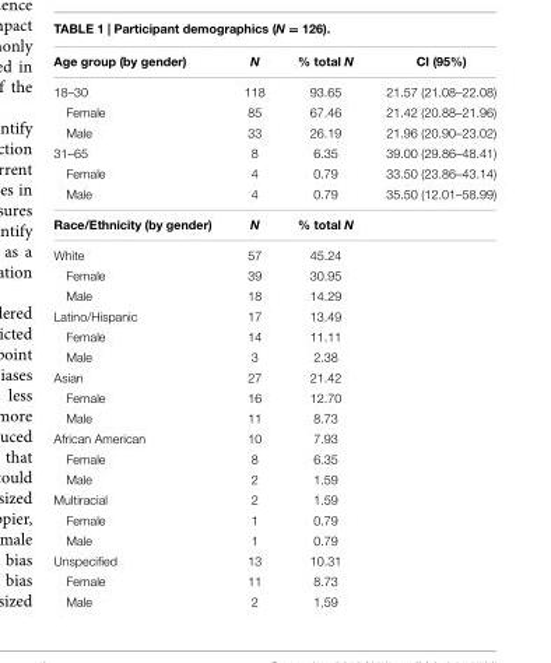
<table><thead><tr><td>Age group (by gender)</td><td>N</td><td>% total N</td><td>CI (95%)</td></tr></thead><tbody><tr><td>18–30</td><td>118</td><td>93.65</td><td>21.57 (21.08–22.08)</td></tr><tr><td>Female</td><td>85</td><td>67.46</td><td>21.42 (20.88–21.96)</td></tr><tr><td>Male</td><td>33</td><td>26.19</td><td>21.96 (20.90–23.02)</td></tr><tr><td>31–65</td><td>8</td><td>6.35</td><td>39.00 (29.86–48.41)</td></tr><tr><td>Female</td><td>4</td><td>0.79</td><td>33.50 (23.86–43.14)</td></tr><tr><td>Male</td><td>4</td><td>0.79</td><td>35.50 (12.01–58.99)</td></tr><tr><td>Race/Ethnicity (by gender)</td><td>N</td><td>% total N</td><td></td></tr><tr><td>White</td><td>57</td><td>45.24</td><td></td></tr><tr><td>Female</td><td>39</td><td>30.95</td><td></td></tr><tr><td>Male</td><td>18</td><td>14.29</td><td></td></tr><tr><td>Latino/Hispanic</td><td>17</td><td>13.49</td><td></td></tr><tr><td>Female</td><td>14</td><td>11.11</td><td></td></tr><tr><td>Male</td><td>3</td><td>2.38</td><td></td></tr><tr><td>Asian</td><td>27</td><td>21.42</td><td></td></tr><tr><td>Female</td><td>16</td><td>12.70</td><td></td></tr><tr><td>Male</td><td>11</td><td>8.73</td><td></td></tr><tr><td>African American</td><td>10</td><td>7.93</td><td></td></tr><tr><td>Female</td><td>8</td><td>6.35</td><td></td></tr><tr><td>Male</td><td>2</td><td>1.59</td><td></td></tr><tr><td>Multiracial</td><td>2</td><td>1.59</td><td></td></tr><tr><td>Female</td><td>1</td><td>0.79</td><td></td></tr><tr><td>Male</td><td>1</td><td>0.79</td><td></td></tr><tr><td>Unspecified</td><td>13</td><td>10.31</td><td></td></tr><tr><td>Female</td><td>11</td><td>8.73</td><td></td></tr><tr><td>Male</td><td>2</td><td>1.59</td><td></td></tr></tbody></table>